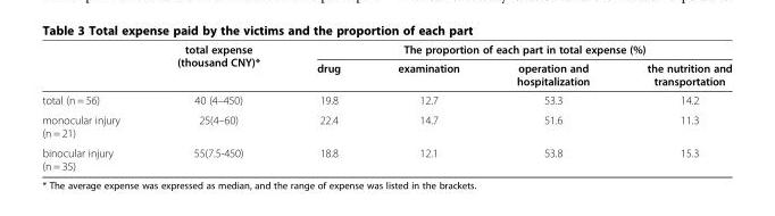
<table><thead><tr><td rowspan="2"></td><td rowspan="2">total expense (thousand CNY)*</td><td colspan="4">The proportion of each part in total expense (%)</td></tr><tr><td>drug</td><td>examination</td><td>operation and hospitalization</td><td>the nutrition and transportation</td></tr></thead><tbody><tr><td>total (n = 56)</td><td>40 (4–450)</td><td>19.8</td><td>12.7</td><td>53.3</td><td>14.2</td></tr><tr><td>monocular injury (n = 21)</td><td>25(4–60)</td><td>22.4</td><td>14.7</td><td>51.6</td><td>11.3</td></tr><tr><td>binocular injury (n = 35)</td><td>55(7.5-450)</td><td>18.8</td><td>12.1</td><td>53.8</td><td>15.3</td></tr></tbody></table>